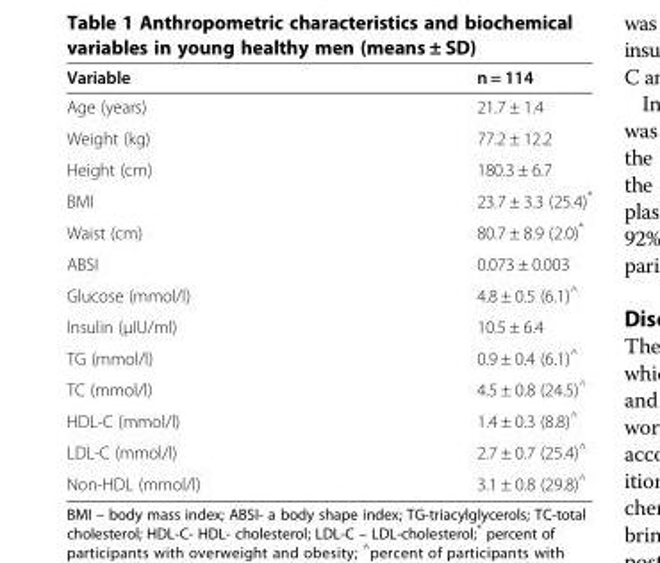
<table><thead><tr><td>Variable</td><td>n = 114</td></tr></thead><tbody><tr><td>Age (years)</td><td>21.7 ± 1.4</td></tr><tr><td>Weight (kg)</td><td>77.2 ± 12.2</td></tr><tr><td>Height (cm)</td><td>180.3 ± 6.7</td></tr><tr><td>BMI</td><td>23.7 ± 3.3 (25.4)*</td></tr><tr><td>Waist (cm)</td><td>80.7 ± 8.9 (2.0)*</td></tr><tr><td>ABSI</td><td>0.073 ± 0.003</td></tr><tr><td>Glucose (mmol/l)</td><td>4.8 ± 0.5 (6.1)<sup>^</sup></td></tr><tr><td>Insulin (μIU/ml)</td><td>10.5 ± 6.4</td></tr><tr><td>TG (mmol/l)</td><td>0.9 ± 0.4 (6.1)<sup>^</sup></td></tr><tr><td>TC (mmol/l)</td><td>4.5 ± 0.8 (24.5)<sup>^</sup></td></tr><tr><td>HDL-C (mmol/l)</td><td>1.4 ± 0.3 (8.8)<sup>^</sup></td></tr><tr><td>LDL-C (mmol/l)</td><td>2.7 ± 0.7 (25.4)<sup>^</sup></td></tr><tr><td>Non-HDL (mmol/l)</td><td>3.1 ± 0.8 (29.8)<sup>^</sup></td></tr></tbody></table>